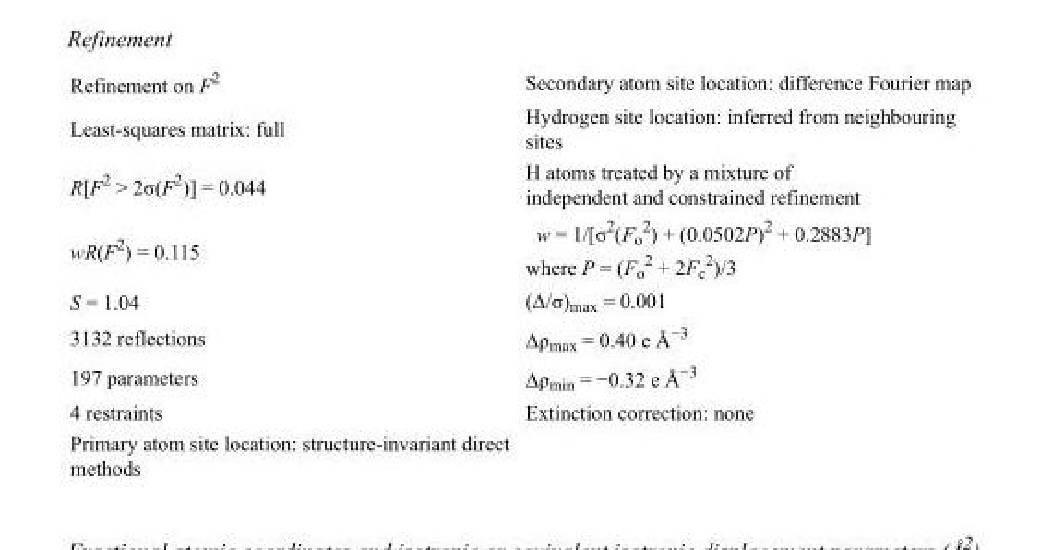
<table><tbody><tr><td>Refinement on F<sup>2</sup></td><td>Secondary atom site location: difference Fourier map</td></tr><tr><td>Least-squares matrix: full</td><td>Hydrogen site location: inferred from neighbouring sites</td></tr><tr><td>R[F<sup>2</sup> &gt; 2σ(F<sup>2</sup>)] = 0.044</td><td>H atoms treated by a mixture of independent and constrained refinement</td></tr><tr><td>wR(F<sup>2</sup>) = 0.115</td><td>w = 1/[σ<sup>2</sup>(F<sub>o</sub> <sup>2</sup>) + (0.0502P)<sup>2</sup> + 0.2883P] where P = (F<sub>o</sub> <sup>2</sup> + 2F<sub>c</sub> <sup>2</sup>)/3</td></tr><tr><td>S = 1.04</td><td>(Δ/σ)<sub>max</sub> = 0.001</td></tr><tr><td>3132 reflections</td><td>Δρ<sub>max</sub> = 0.40 e Å<sup>−3</sup></td></tr><tr><td>197 parameters</td><td>Δρ<sub>min</sub> = −0.32 e Å<sup>−3</sup></td></tr><tr><td>4 restraints</td><td>Extinction correction: none</td></tr><tr><td>Primary atom site location: structure-invariant direct methods</td><td></td></tr></tbody></table>